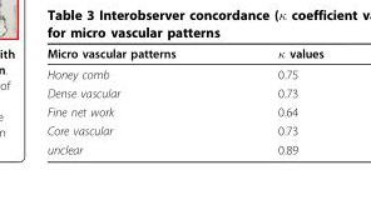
<table><thead><tr><td>Micro vascular patterns</td><td>κ values</td></tr></thead><tbody><tr><td>Honey comb</td><td>0.75</td></tr><tr><td>Dense vascular</td><td>0.73</td></tr><tr><td>Fine net work</td><td>0.64</td></tr><tr><td>Core vascular</td><td>0.73</td></tr><tr><td>unclear</td><td>0.89</td></tr></tbody></table>